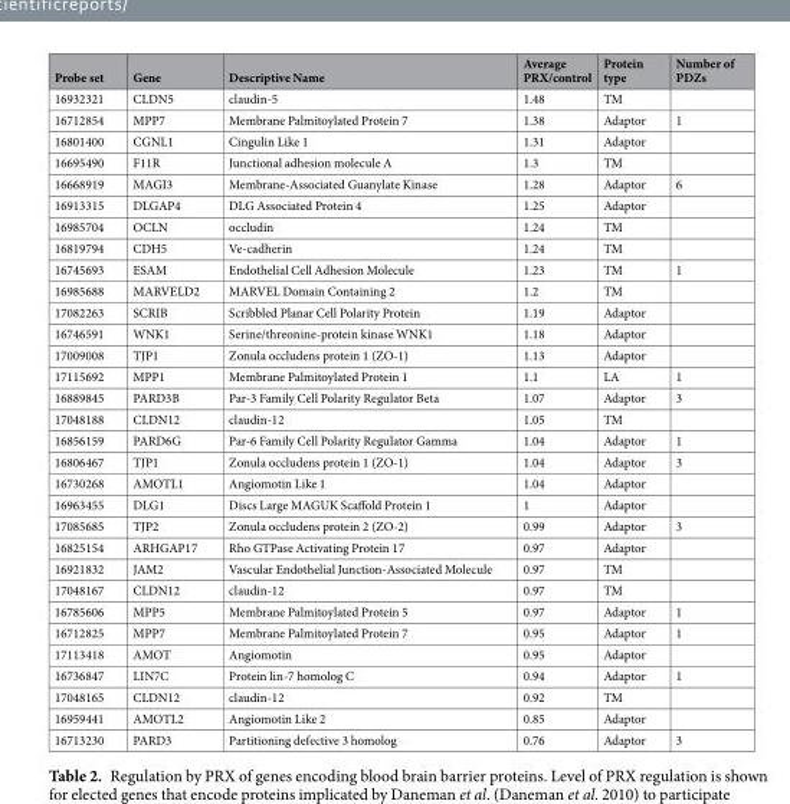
<table><thead><tr><td>Probe set</td><td>Gene</td><td>Descriptive Name</td><td>Average PRX/control</td><td>Protein type</td><td>Number of PDZs</td></tr></thead><tbody><tr><td>16932321</td><td>CLDN5</td><td>claudin-5</td><td>1.48</td><td>TM</td><td></td></tr><tr><td>16712854</td><td>MPP7</td><td>Membrane Palmitoylated Protein 7</td><td>1.38</td><td>Adaptor</td><td>1</td></tr><tr><td>16801400</td><td>CGNL1</td><td>Cingulin Like 1</td><td>1.31</td><td>Adaptor</td><td></td></tr><tr><td>16695490</td><td>F11R</td><td>Junctional adhesion molecule A</td><td>1.3</td><td>TM</td><td></td></tr><tr><td>16668919</td><td>MAGI3</td><td>Membrane-Associated Guanylate Kinase</td><td>1.28</td><td>Adaptor</td><td>6</td></tr><tr><td>16913315</td><td>DLGAP4</td><td>DLG Associated Protein 4</td><td>1.25</td><td>Adaptor</td><td></td></tr><tr><td>16985704</td><td>OCLN</td><td>occludin</td><td>1.24</td><td>TM</td><td></td></tr><tr><td>16819794</td><td>CDH5</td><td>Ve-cadherin</td><td>1.24</td><td>TM</td><td></td></tr><tr><td>16745693</td><td>ESAM</td><td>Endothelial Cell Adhesion Molecule</td><td>1.23</td><td>TM</td><td>1</td></tr><tr><td>16985688</td><td>MARVELD2</td><td>MARVEL Domain Containing 2</td><td>1.2</td><td>TM</td><td></td></tr><tr><td>17082263</td><td>SCRIB</td><td>Scribbled Planar Cell Polarity Protein</td><td>1.19</td><td>Adaptor</td><td></td></tr><tr><td>16746591</td><td>WNK1</td><td>Serine/threonine-protein kinase WNK1</td><td>1.18</td><td>Adaptor</td><td></td></tr><tr><td>17009008</td><td>TJP1</td><td>Zonula occludens protein 1 (ZO-1)</td><td>1.13</td><td>Adaptor</td><td></td></tr><tr><td>17115692</td><td>MPP1</td><td>Membrane Palmitoylated Protein 1</td><td>1.1</td><td>LA</td><td>1</td></tr><tr><td>16889845</td><td>PARD3B</td><td>Par-3 Family Cell Polarity Regulator Beta</td><td>1.07</td><td>Adaptor</td><td>3</td></tr><tr><td>17048188</td><td>CLDN12</td><td>claudin-12</td><td>1.05</td><td>TM</td><td></td></tr><tr><td>16856159</td><td>PARD6G</td><td>Par-6 Family Cell Polarity Regulator Gamma</td><td>1.04</td><td>Adaptor</td><td>1</td></tr><tr><td>16806467</td><td>TJP1</td><td>Zonula occludens protein 1 (ZO-1)</td><td>1.04</td><td>Adaptor</td><td>3</td></tr><tr><td>16730268</td><td>AMOTL1</td><td>Angiomotin Like 1</td><td>1.04</td><td>Adaptor</td><td></td></tr><tr><td>16963455</td><td>DLG1</td><td>Discs Large MAGUK Scaffold Protein 1</td><td>1</td><td>Adaptor</td><td></td></tr><tr><td>17085685</td><td>TJP2</td><td>Zonula occludens protein 2 (ZO-2)</td><td>0.99</td><td>Adaptor</td><td>3</td></tr><tr><td>16825154</td><td>ARHGAP17</td><td>Rho GTPase Activating Protein 17</td><td>0.97</td><td>Adaptor</td><td></td></tr><tr><td>16921832</td><td>JAM2</td><td>Vascular Endothelial Junction-Associated Molecule</td><td>0.97</td><td>TM</td><td></td></tr><tr><td>17048167</td><td>CLDN12</td><td>claudin-12</td><td>0.97</td><td>TM</td><td></td></tr><tr><td>16785606</td><td>MPP5</td><td>Membrane Palmitoylated Protein 5</td><td>0.97</td><td>Adaptor</td><td>1</td></tr><tr><td>16712825</td><td>MPP7</td><td>Membrane Palmitoylated Protein 7</td><td>0.95</td><td>Adaptor</td><td>1</td></tr><tr><td>17113418</td><td>AMOT</td><td>Angiomotin</td><td>0.95</td><td>Adaptor</td><td></td></tr><tr><td>16736847</td><td>LIN7C</td><td>Protein lin-7 homolog C</td><td>0.94</td><td>Adaptor</td><td>1</td></tr><tr><td>17048165</td><td>CLDN12</td><td>claudin-12</td><td>0.92</td><td>TM</td><td></td></tr><tr><td>16959441</td><td>AMOTL2</td><td>Angiomotin Like 2</td><td>0.85</td><td>Adaptor</td><td></td></tr><tr><td>16713230</td><td>PARD3</td><td>Partitioning defective 3 homolog</td><td>0.76</td><td>Adaptor</td><td>3</td></tr></tbody></table>